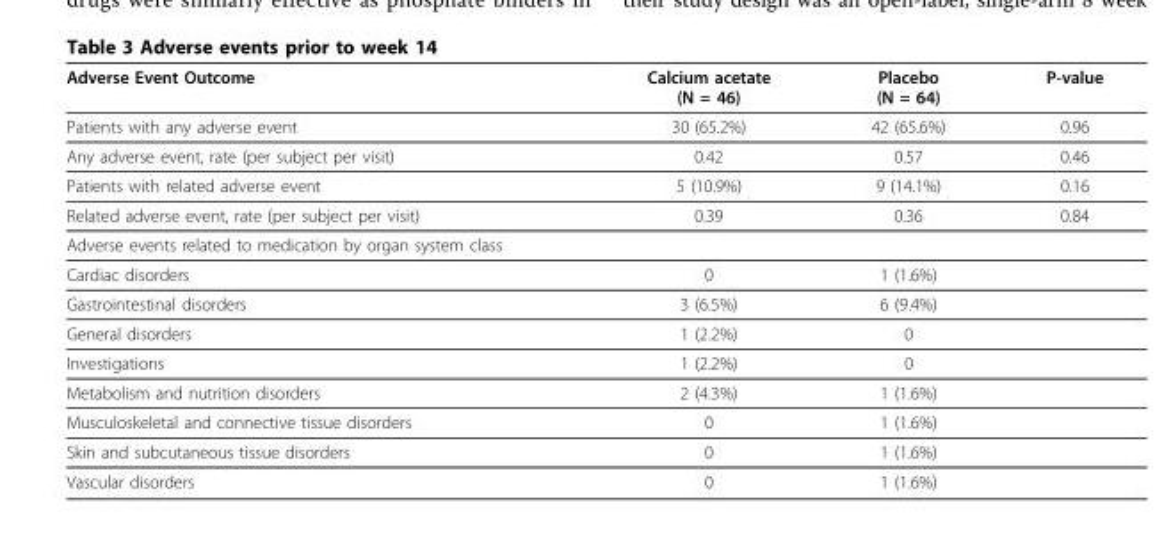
<table><thead><tr><td>Adverse Event Outcome</td><td>Calcium acetate (N = 46)</td><td>Placebo (N = 64)</td><td>P-value</td></tr></thead><tbody><tr><td>Patients with any adverse event</td><td>30 (65.2%)</td><td>42 (65.6%)</td><td>0.96</td></tr><tr><td>Any adverse event, rate (per subject per visit)</td><td>0.42</td><td>0.57</td><td>0.46</td></tr><tr><td>Patients with related adverse event</td><td>5 (10.9%)</td><td>9 (14.1%)</td><td>0.16</td></tr><tr><td>Related adverse event, rate (per subject per visit)</td><td>0.39</td><td>0.36</td><td>0.84</td></tr><tr><td colspan="4">Adverse events related to medication by organ system class</td></tr><tr><td>Cardiac disorders</td><td>0</td><td>1 (1.6%)</td><td></td></tr><tr><td>Gastrointestinal disorders</td><td>3 (6.5%)</td><td>6 (9.4%)</td><td></td></tr><tr><td>General disorders</td><td>1 (2.2%)</td><td>0</td><td></td></tr><tr><td>Investigations</td><td>1 (2.2%)</td><td>0</td><td></td></tr><tr><td>Metabolism and nutrition disorders</td><td>2 (4.3%)</td><td>1 (1.6%)</td><td></td></tr><tr><td>Musculoskeletal and connective tissue disorders</td><td>0</td><td>1 (1.6%)</td><td></td></tr><tr><td>Skin and subcutaneous tissue disorders</td><td>0</td><td>1 (1.6%)</td><td></td></tr><tr><td>Vascular disorders</td><td>0</td><td>1 (1.6%)</td><td></td></tr></tbody></table>